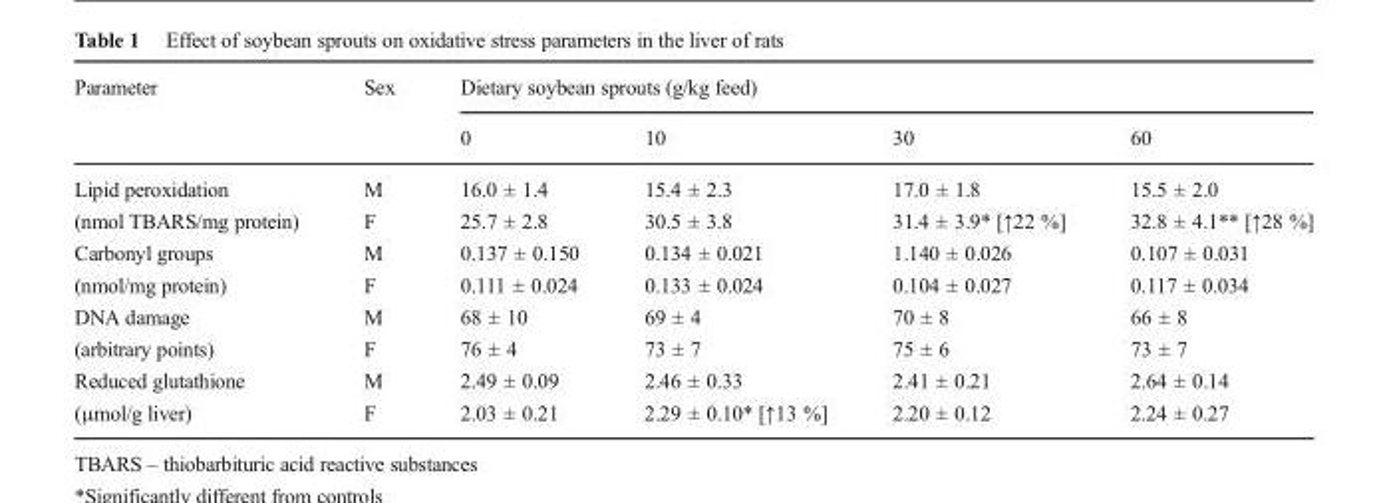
<table><thead><tr><td rowspan="2">Parameter</td><td rowspan="2">Sex</td><td colspan="4">Dietary soybean sprouts (g/kg feed)</td></tr><tr><td>0</td><td>10</td><td>30</td><td>60</td></tr></thead><tbody><tr><td>Lipid peroxidation</td><td>M</td><td>16.0 ± 1.4</td><td>15.4 ± 2.3</td><td>17.0 ± 1.8</td><td>15.5 ± 2.0</td></tr><tr><td>(nmol TBARS/mg protein)</td><td>F</td><td>25.7 ± 2.8</td><td>30.5 ± 3.8</td><td>31.4 ± 3.9* [↑22 %]</td><td>32.8 ± 4.1** [↑28 %]</td></tr><tr><td>Carbonyl groups</td><td>M</td><td>0.137 ± 0.150</td><td>0.134 ± 0.021</td><td>1.140 ± 0.026</td><td>0.107 ± 0.031</td></tr><tr><td>(nmol/mg protein)</td><td>F</td><td>0.111 ± 0.024</td><td>0.133 ± 0.024</td><td>0.104 ± 0.027</td><td>0.117 ± 0.034</td></tr><tr><td>DNA damage</td><td>M</td><td>68 ± 10</td><td>69 ± 4</td><td>70 ± 8</td><td>66 ± 8</td></tr><tr><td>(arbitrary points)</td><td>F</td><td>76 ± 4</td><td>73 ± 7</td><td>75 ± 6</td><td>73 ± 7</td></tr><tr><td>Reduced glutathione</td><td>M</td><td>2.49 ± 0.09</td><td>2.46 ± 0.33</td><td>2.41 ± 0.21</td><td>2.64 ± 0.14</td></tr><tr><td>(μmol/g liver)</td><td>F</td><td>2.03 ± 0.21</td><td>2.29 ± 0.10* [↑13 %]</td><td>2.20 ± 0.12</td><td>2.24 ± 0.27</td></tr></tbody></table>